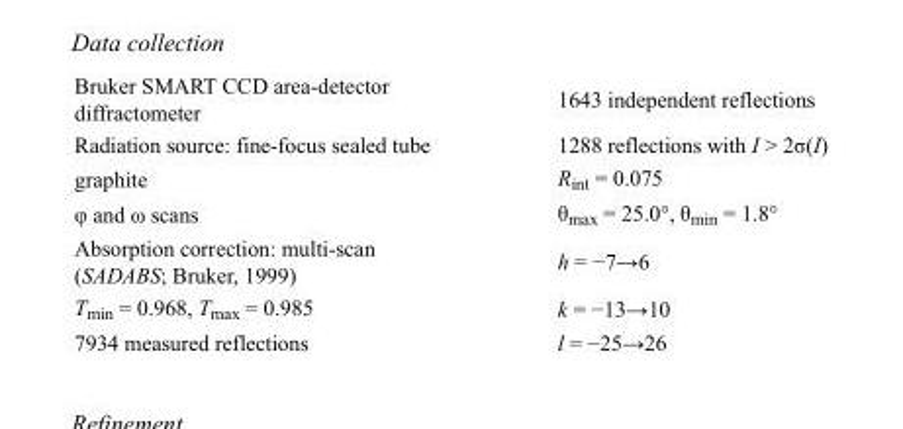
<table><tbody><tr><td>Bruker SMART CCD area-detector diffractometer</td><td>1643 independent reflections</td></tr><tr><td>Radiation source: fine-focus sealed tube</td><td>1288 reflections with I &gt; 2σ(I)</td></tr><tr><td>graphite</td><td>R<sub>int</sub> = 0.075</td></tr><tr><td>φ and ω scans</td><td>θ<sub>max</sub> = 25.0°, θ<sub>min</sub> = 1.8°</td></tr><tr><td>Absorption correction: multi-scan (SADABS; Bruker, 1999)</td><td>h = −7→6</td></tr><tr><td>T<sub>min</sub> = 0.968, T<sub>max</sub> = 0.985</td><td>k = −13→10</td></tr><tr><td>7934 measured reflections</td><td>l = −25→26</td></tr></tbody></table>